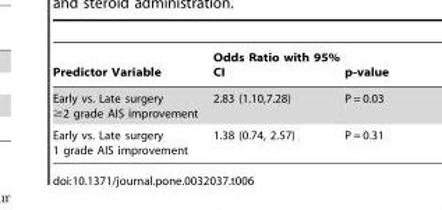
<table><thead><tr><td>Predictor Variable</td><td>Odds Ratio with 95% CI</td><td>p-value</td></tr></thead><tbody><tr><td>Early vs. Late surgery ≥2 grade AIS improvement</td><td>2.83 (1.10,7.28)</td><td>P = 0.03</td></tr><tr><td>Early vs. Late surgery 1 grade AIS improvement</td><td>1.38 (0.74, 2.57)</td><td>P = 0.31</td></tr></tbody></table>